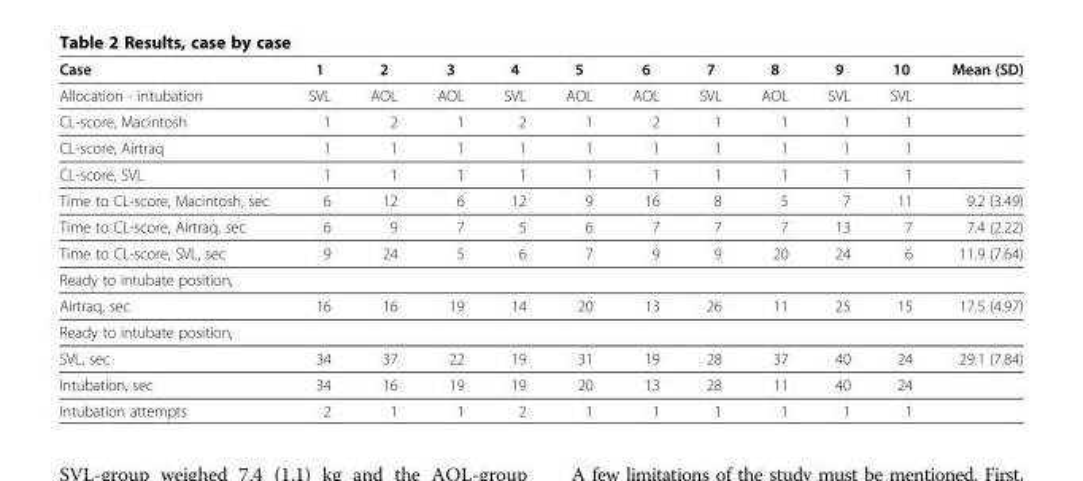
<table><thead><tr><td>Case</td><td>1</td><td>2</td><td>3</td><td>4</td><td>5</td><td>6</td><td>7</td><td>8</td><td>9</td><td>10</td><td>Mean (SD)</td></tr></thead><tbody><tr><td>Allocation - intubation</td><td>SVL</td><td>AOL</td><td>AOL</td><td>SVL</td><td>AOL</td><td>AOL</td><td>SVL</td><td>AOL</td><td>SVL</td><td>SVL</td><td></td></tr><tr><td>CL-score, Macintosh</td><td>1</td><td>2</td><td>1</td><td>2</td><td>1</td><td>2</td><td>1</td><td>1</td><td>1</td><td>1</td><td></td></tr><tr><td>CL-score, Airtraq</td><td>1</td><td>1</td><td>1</td><td>1</td><td>1</td><td>1</td><td>1</td><td>1</td><td>1</td><td>1</td><td></td></tr><tr><td>CL-score, SVL</td><td>1</td><td>1</td><td>1</td><td>1</td><td>1</td><td>1</td><td>1</td><td>1</td><td>1</td><td>1</td><td></td></tr><tr><td>Time to CL-score, Macintosh, sec</td><td>6</td><td>12</td><td>6</td><td>12</td><td>9</td><td>16</td><td>8</td><td>5</td><td>7</td><td>11</td><td>9.2 (3.49)</td></tr><tr><td>Time to CL-score, Airtraq, sec</td><td>6</td><td>9</td><td>7</td><td>5</td><td>6</td><td>7</td><td>7</td><td>7</td><td>13</td><td>7</td><td>7.4 (2.22)</td></tr><tr><td>Time to CL-score, SVL, sec</td><td>9</td><td>24</td><td>5</td><td>6</td><td>7</td><td>9</td><td>9</td><td>20</td><td>24</td><td>6</td><td>11.9 (7.64)</td></tr><tr><td colspan="12">Ready to intubate position,</td></tr><tr><td>Airtraq, sec</td><td>16</td><td>16</td><td>19</td><td>14</td><td>20</td><td>13</td><td>26</td><td>11</td><td>25</td><td>15</td><td>17.5 (4.97)</td></tr><tr><td colspan="12">Ready to intubate position,</td></tr><tr><td>SVL, sec</td><td>34</td><td>37</td><td>22</td><td>19</td><td>31</td><td>19</td><td>28</td><td>37</td><td>40</td><td>24</td><td>29.1 (7.84)</td></tr><tr><td>Intubation, sec</td><td>34</td><td>16</td><td>19</td><td>19</td><td>20</td><td>13</td><td>28</td><td>11</td><td>40</td><td>24</td><td></td></tr><tr><td>Intubation attempts</td><td>2</td><td>1</td><td>1</td><td>2</td><td>1</td><td>1</td><td>1</td><td>1</td><td>1</td><td>1</td><td></td></tr></tbody></table>